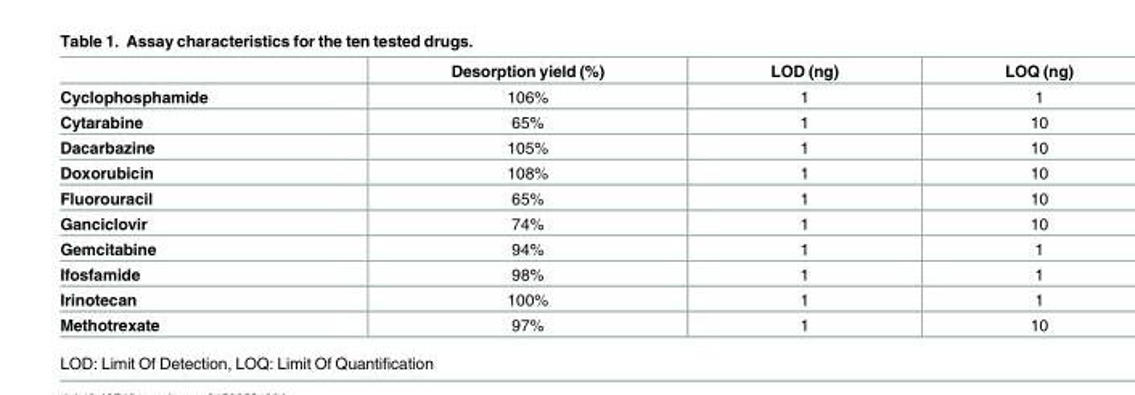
<table><thead><tr><td></td><td>Desorption yield (%)</td><td>LOD (ng)</td><td>LOQ (ng)</td></tr></thead><tbody><tr><td>Cyclophosphamide</td><td>106%</td><td>1</td><td>1</td></tr><tr><td>Cytarabine</td><td>65%</td><td>1</td><td>10</td></tr><tr><td>Dacarbazine</td><td>105%</td><td>1</td><td>10</td></tr><tr><td>Doxorubicin</td><td>108%</td><td>1</td><td>10</td></tr><tr><td>Fluorouracil</td><td>65%</td><td>1</td><td>10</td></tr><tr><td>Ganciclovir</td><td>74%</td><td>1</td><td>10</td></tr><tr><td>Gemcitabine</td><td>94%</td><td>1</td><td>1</td></tr><tr><td>Ifosfamide</td><td>98%</td><td>1</td><td>1</td></tr><tr><td>Irinotecan</td><td>100%</td><td>1</td><td>1</td></tr><tr><td>Methotrexate</td><td>97%</td><td>1</td><td>10</td></tr></tbody></table>